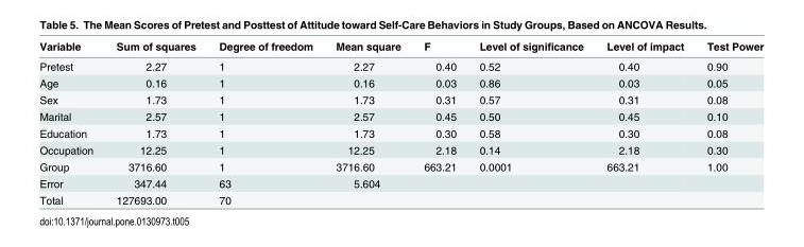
<table><thead><tr><td>Variable</td><td>Sum of squares</td><td>Degree of freedom</td><td>Mean square</td><td>F</td><td>Level of significance</td><td>Level of impact</td><td>Test Power</td></tr></thead><tbody><tr><td>Pretest</td><td>2.27</td><td>1</td><td>2.27</td><td>0.40</td><td>0.52</td><td>0.40</td><td>0.90</td></tr><tr><td>Age</td><td>0.16</td><td>1</td><td>0.16</td><td>0.03</td><td>0.86</td><td>0.03</td><td>0.05</td></tr><tr><td>Sex</td><td>1.73</td><td>1</td><td>1.73</td><td>0.31</td><td>0.57</td><td>0.31</td><td>0.08</td></tr><tr><td>Marital</td><td>2.57</td><td>1</td><td>2.57</td><td>0.45</td><td>0.50</td><td>0.45</td><td>0.10</td></tr><tr><td>Education</td><td>1.73</td><td>1</td><td>1.73</td><td>0.30</td><td>0.58</td><td>0.30</td><td>0.08</td></tr><tr><td>Occupation</td><td>12.25</td><td>1</td><td>12.25</td><td>2.18</td><td>0.14</td><td>2.18</td><td>0.30</td></tr><tr><td>Group</td><td>3716.60</td><td>1</td><td>3716.60</td><td>663.21</td><td>0.0001</td><td>663.21</td><td>1.00</td></tr><tr><td>Error</td><td>347.44</td><td>63</td><td>5.604</td><td></td><td></td><td></td><td></td></tr><tr><td>Total</td><td>127693.00</td><td>70</td><td></td><td></td><td></td><td></td><td></td></tr></tbody></table>